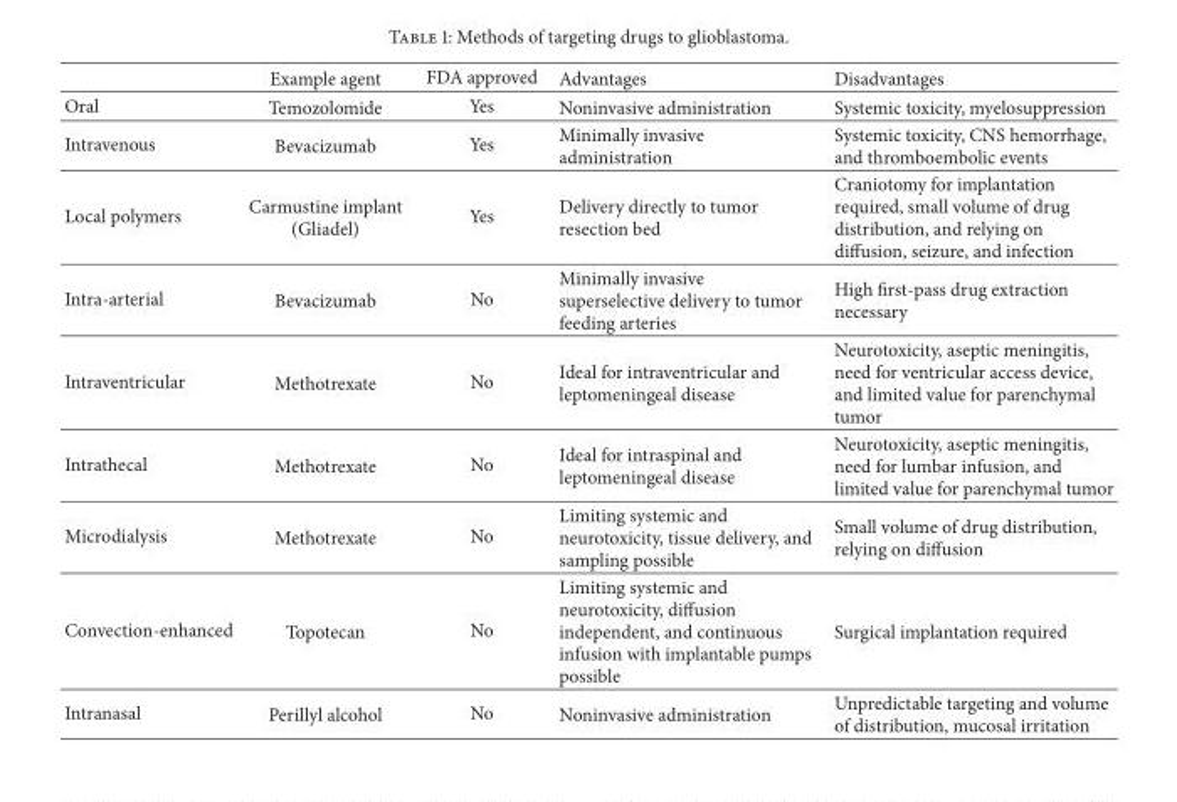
<table><thead><tr><td></td><td>Example agent</td><td>FDA approved</td><td>Advantages</td><td>Disadvantages</td></tr></thead><tbody><tr><td>Oral</td><td>Temozolomide</td><td>Yes</td><td>Noninvasive administration</td><td>Systemic toxicity, myelosuppression</td></tr><tr><td>Intravenous</td><td>Bevacizumab</td><td>Yes</td><td>Minimally invasive administration</td><td>Systemic toxicity, CNS hemorrhage, and thromboembolic events</td></tr><tr><td>Local polymers</td><td>Carmustine implant (Gliadel)</td><td>Yes</td><td>Delivery directly to tumor resection bed</td><td>Craniotomy for implantation required, small volume of drug distribution, and relying on diffusion, seizure, and infection</td></tr><tr><td>Intra-arterial</td><td>Bevacizumab</td><td>No</td><td>Minimally invasive superselective delivery to tumor feeding arteries</td><td>High first-pass drug extraction necessary</td></tr><tr><td>Intraventricular</td><td>Methotrexate</td><td>No</td><td>Ideal for intraventricular and leptomeningeal disease</td><td>Neurotoxicity, aseptic meningitis, need for ventricular access device, and limited value for parenchymal tumor</td></tr><tr><td>Intrathecal</td><td>Methotrexate</td><td>No</td><td>Ideal for intraspinal and leptomeningeal disease</td><td>Neurotoxicity, aseptic meningitis, need for lumbar infusion, and limited value for parenchymal tumor</td></tr><tr><td>Microdialysis</td><td>Methotrexate</td><td>No</td><td>Limiting systemic and neurotoxicity, tissue delivery, and sampling possible</td><td>Small volume of drug distribution, relying on diffusion</td></tr><tr><td>Convection-enhanced</td><td>Topotecan</td><td>No</td><td>Limiting systemic and neurotoxicity, diffusion independent, and continuous infusion with implantable pumps possible</td><td>Surgical implantation required</td></tr><tr><td>Intranasal</td><td>Perillyl alcohol</td><td>No</td><td>Noninvasive administration</td><td>Unpredictable targeting and volume of distribution, mucosal irritation</td></tr></tbody></table>